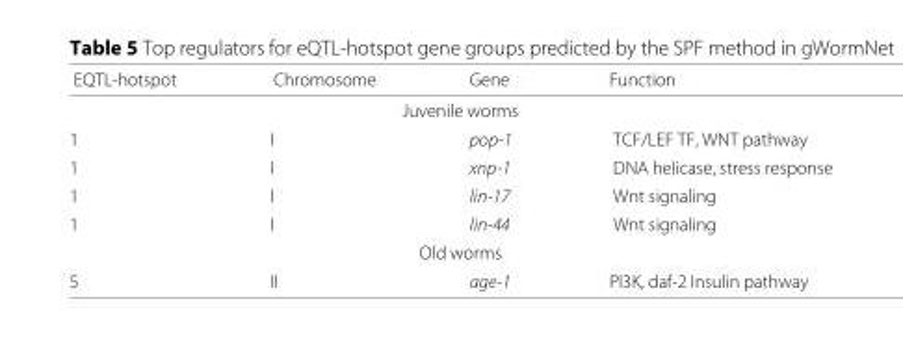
<table><thead><tr><td>EQTL-hotspot</td><td>Chromosome</td><td>Gene</td><td>Function</td></tr></thead><tbody><tr><td colspan="4">Juvenile worms</td></tr><tr><td>1</td><td>I</td><td>pop-1</td><td>TCF/LEF TF, WNT pathway</td></tr><tr><td>1</td><td>I</td><td>xnp-1</td><td>DNA helicase, stress response</td></tr><tr><td>1</td><td>I</td><td>lin-17</td><td>Wnt signaling</td></tr><tr><td>1</td><td>I</td><td>lin-44</td><td>Wnt signaling</td></tr><tr><td colspan="4">Old worms</td></tr><tr><td>5</td><td>II</td><td>age-1</td><td>PI3K, daf-2 Insulin pathway</td></tr></tbody></table>